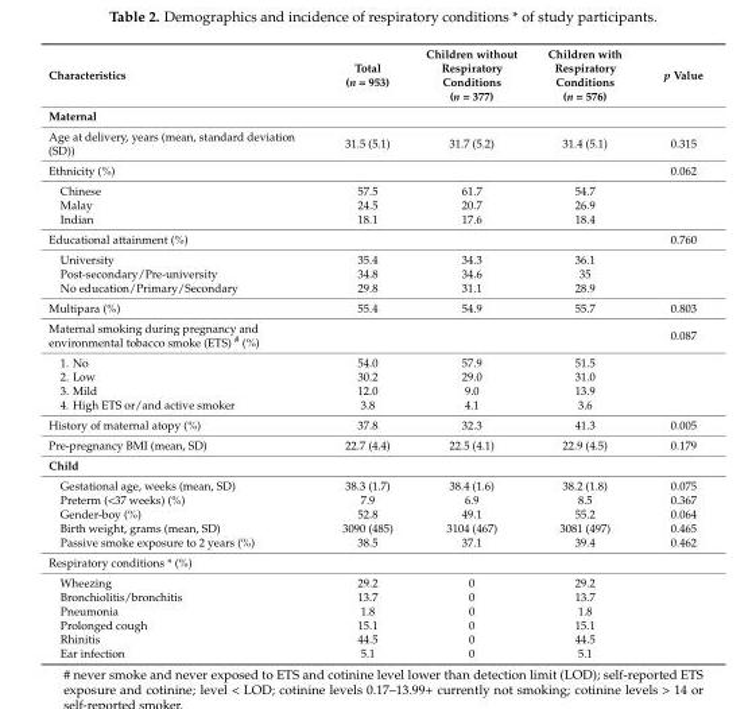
<table><thead><tr><td>Characteristics</td><td>Total (n = 953)</td><td>Children without Respiratory Conditions (n = 377)</td><td>Children with Respiratory Conditions (n = 576)</td><td>p Value</td></tr></thead><tbody><tr><td colspan="5">Maternal</td></tr><tr><td>Age at delivery, years (mean, standard deviation (SD))</td><td>31.5 (5.1)</td><td>31.7 (5.2)</td><td>31.4 (5.1)</td><td>0.315</td></tr><tr><td>Ethnicity (%)</td><td></td><td></td><td></td><td>0.062</td></tr><tr><td>Chinese</td><td>57.5</td><td>61.7</td><td>54.7</td><td></td></tr><tr><td>Malay</td><td>24.5</td><td>20.7</td><td>26.9</td><td></td></tr><tr><td>Indian</td><td>18.1</td><td>17.6</td><td>18.4</td><td></td></tr><tr><td>Educational attainment (%)</td><td></td><td></td><td></td><td>0.760</td></tr><tr><td>University</td><td>35.4</td><td>34.3</td><td>36.1</td><td></td></tr><tr><td>Post-secondary/Pre-university</td><td>34.8</td><td>34.6</td><td>35</td><td></td></tr><tr><td>No education/Primary/Secondary</td><td>29.8</td><td>31.1</td><td>28.9</td><td></td></tr><tr><td>Multipara (%)</td><td>55.4</td><td>54.9</td><td>55.7</td><td>0.803</td></tr><tr><td>Maternal smoking during pregnancy and environmental tobacco smoke (ETS) <sup>#</sup> (%)</td><td></td><td></td><td></td><td>0.087</td></tr><tr><td>1. No</td><td>54.0</td><td>57.9</td><td>51.5</td><td></td></tr><tr><td>2. Low</td><td>30.2</td><td>29.0</td><td>31.0</td><td></td></tr><tr><td>3. Mild</td><td>12.0</td><td>9.0</td><td>13.9</td><td></td></tr><tr><td>4. High ETS or/and active smoker</td><td>3.8</td><td>4.1</td><td>3.6</td><td></td></tr><tr><td>History of maternal atopy (%)</td><td>37.8</td><td>32.3</td><td>41.3</td><td>0.005</td></tr><tr><td>Pre-pregnancy BMI (mean, SD)</td><td>22.7 (4.4)</td><td>22.5 (4.1)</td><td>22.9 (4.5)</td><td>0.179</td></tr><tr><td colspan="5">Child</td></tr><tr><td>Gestational age, weeks (mean, SD)</td><td>38.3 (1.7)</td><td>38.4 (1.6)</td><td>38.2 (1.8)</td><td>0.075</td></tr><tr><td>Preterm (&lt;37 weeks) (%)</td><td>7.9</td><td>6.9</td><td>8.5</td><td>0.367</td></tr><tr><td>Gender-boy (%)</td><td>52.8</td><td>49.1</td><td>55.2</td><td>0.064</td></tr><tr><td>Birth weight, grams (mean, SD)</td><td>3090 (485)</td><td>3104 (467)</td><td>3081 (497)</td><td>0.465</td></tr><tr><td>Passive smoke exposure to 2 years (%)</td><td>38.5</td><td>37.1</td><td>39.4</td><td>0.462</td></tr><tr><td colspan="5">Respiratory conditions * (%)</td></tr><tr><td>Wheezing</td><td>29.2</td><td>0</td><td>29.2</td><td></td></tr><tr><td>Bronchiolitis/bronchitis</td><td>13.7</td><td>0</td><td>13.7</td><td></td></tr><tr><td>Pneumonia</td><td>1.8</td><td>0</td><td>1.8</td><td></td></tr><tr><td>Prolonged cough</td><td>15.1</td><td>0</td><td>15.1</td><td></td></tr><tr><td>Rhinitis</td><td>44.5</td><td>0</td><td>44.5</td><td></td></tr><tr><td>Ear infection</td><td>5.1</td><td>0</td><td>5.1</td><td></td></tr></tbody></table>